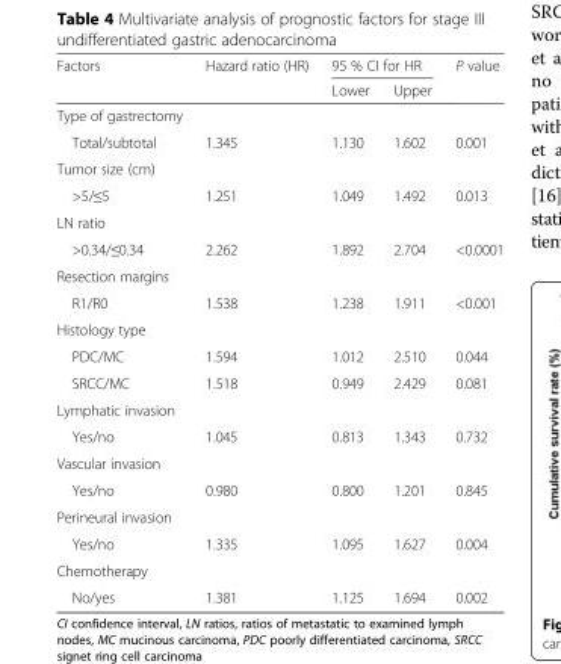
<table><thead><tr><td rowspan="2">Factors</td><td rowspan="2">Hazard ratio (HR)</td><td colspan="2">95 % CI for HR</td><td rowspan="2">P value</td></tr><tr><td>Lower</td><td>Upper</td></tr></thead><tbody><tr><td colspan="5">Type of gastrectomy</td></tr><tr><td>Total/subtotal</td><td>1.345</td><td>1.130</td><td>1.602</td><td>0.001</td></tr><tr><td colspan="5">Tumor size (cm)</td></tr><tr><td>&gt;5/≤5</td><td>1.251</td><td>1.049</td><td>1.492</td><td>0.013</td></tr><tr><td colspan="5">LN ratio</td></tr><tr><td>&gt;0.34/≤0.34</td><td>2.262</td><td>1.892</td><td>2.704</td><td>&lt;0.0001</td></tr><tr><td colspan="5">Resection margins</td></tr><tr><td>R1/R0</td><td>1.538</td><td>1.238</td><td>1.911</td><td>&lt;0.001</td></tr><tr><td colspan="5">Histology type</td></tr><tr><td>PDC/MC</td><td>1.594</td><td>1.012</td><td>2.510</td><td>0.044</td></tr><tr><td>SRCC/MC</td><td>1.518</td><td>0.949</td><td>2.429</td><td>0.081</td></tr><tr><td colspan="5">Lymphatic invasion</td></tr><tr><td>Yes/no</td><td>1.045</td><td>0.813</td><td>1.343</td><td>0.732</td></tr><tr><td colspan="5">Vascular invasion</td></tr><tr><td>Yes/no</td><td>0.980</td><td>0.800</td><td>1.201</td><td>0.845</td></tr><tr><td colspan="5">Perineural invasion</td></tr><tr><td>Yes/no</td><td>1.335</td><td>1.095</td><td>1.627</td><td>0.004</td></tr><tr><td colspan="5">Chemotherapy</td></tr><tr><td>No/yes</td><td>1.381</td><td>1.125</td><td>1.694</td><td>0.002</td></tr></tbody></table>